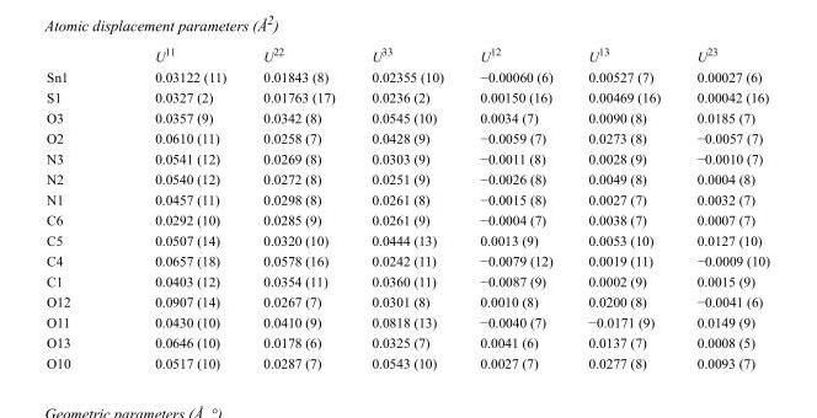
<table><thead><tr><td></td><td>U<sup>11</sup></td><td>U<sup>22</sup></td><td>U<sup>33</sup></td><td>U<sup>12</sup></td><td>U<sup>13</sup></td><td>U<sup>23</sup></td></tr></thead><tbody><tr><td>Sn1</td><td>0.03122 (11)</td><td>0.01843 (8)</td><td>0.02355 (10)</td><td>−0.00060 (6)</td><td>0.00527 (7)</td><td>0.00027 (6)</td></tr><tr><td>S1</td><td>0.0327 (2)</td><td>0.01763 (17)</td><td>0.0236 (2)</td><td>0.00150 (16)</td><td>0.00469 (16)</td><td>0.00042 (16)</td></tr><tr><td>O3</td><td>0.0357 (9)</td><td>0.0342 (8)</td><td>0.0545 (10)</td><td>0.0034 (7)</td><td>0.0090 (8)</td><td>0.0185 (7)</td></tr><tr><td>O2</td><td>0.0610 (11)</td><td>0.0258 (7)</td><td>0.0428 (9)</td><td>−0.0059 (7)</td><td>0.0273 (8)</td><td>−0.0057 (7)</td></tr><tr><td>N3</td><td>0.0541 (12)</td><td>0.0269 (8)</td><td>0.0303 (9)</td><td>−0.0011 (8)</td><td>0.0028 (9)</td><td>−0.0010 (7)</td></tr><tr><td>N2</td><td>0.0540 (12)</td><td>0.0272 (8)</td><td>0.0251 (9)</td><td>−0.0026 (8)</td><td>0.0049 (8)</td><td>0.0004 (8)</td></tr><tr><td>N1</td><td>0.0457 (11)</td><td>0.0298 (8)</td><td>0.0261 (8)</td><td>−0.0015 (8)</td><td>0.0027 (7)</td><td>0.0032 (7)</td></tr><tr><td>C6</td><td>0.0292 (10)</td><td>0.0285 (9)</td><td>0.0261 (9)</td><td>−0.0004 (7)</td><td>0.0038 (7)</td><td>0.0007 (7)</td></tr><tr><td>C5</td><td>0.0507 (14)</td><td>0.0320 (10)</td><td>0.0444 (13)</td><td>0.0013 (9)</td><td>0.0053 (10)</td><td>0.0127 (10)</td></tr><tr><td>C4</td><td>0.0657 (18)</td><td>0.0578 (16)</td><td>0.0242 (11)</td><td>−0.0079 (12)</td><td>0.0019 (11)</td><td>−0.0009 (10)</td></tr><tr><td>C1</td><td>0.0403 (12)</td><td>0.0354 (11)</td><td>0.0360 (11)</td><td>−0.0087 (9)</td><td>0.0002 (9)</td><td>0.0015 (9)</td></tr><tr><td>O12</td><td>0.0907 (14)</td><td>0.0267 (7)</td><td>0.0301 (8)</td><td>0.0010 (8)</td><td>0.0200 (8)</td><td>−0.0041 (6)</td></tr><tr><td>O11</td><td>0.0430 (10)</td><td>0.0410 (9)</td><td>0.0818 (13)</td><td>−0.0040 (7)</td><td>−0.0171 (9)</td><td>0.0149 (9)</td></tr><tr><td>O13</td><td>0.0646 (10)</td><td>0.0178 (6)</td><td>0.0325 (7)</td><td>0.0041 (6)</td><td>0.0137 (7)</td><td>0.0008 (5)</td></tr><tr><td>O10</td><td>0.0517 (10)</td><td>0.0287 (7)</td><td>0.0543 (10)</td><td>0.0027 (7)</td><td>0.0277 (8)</td><td>0.0093 (7)</td></tr></tbody></table>